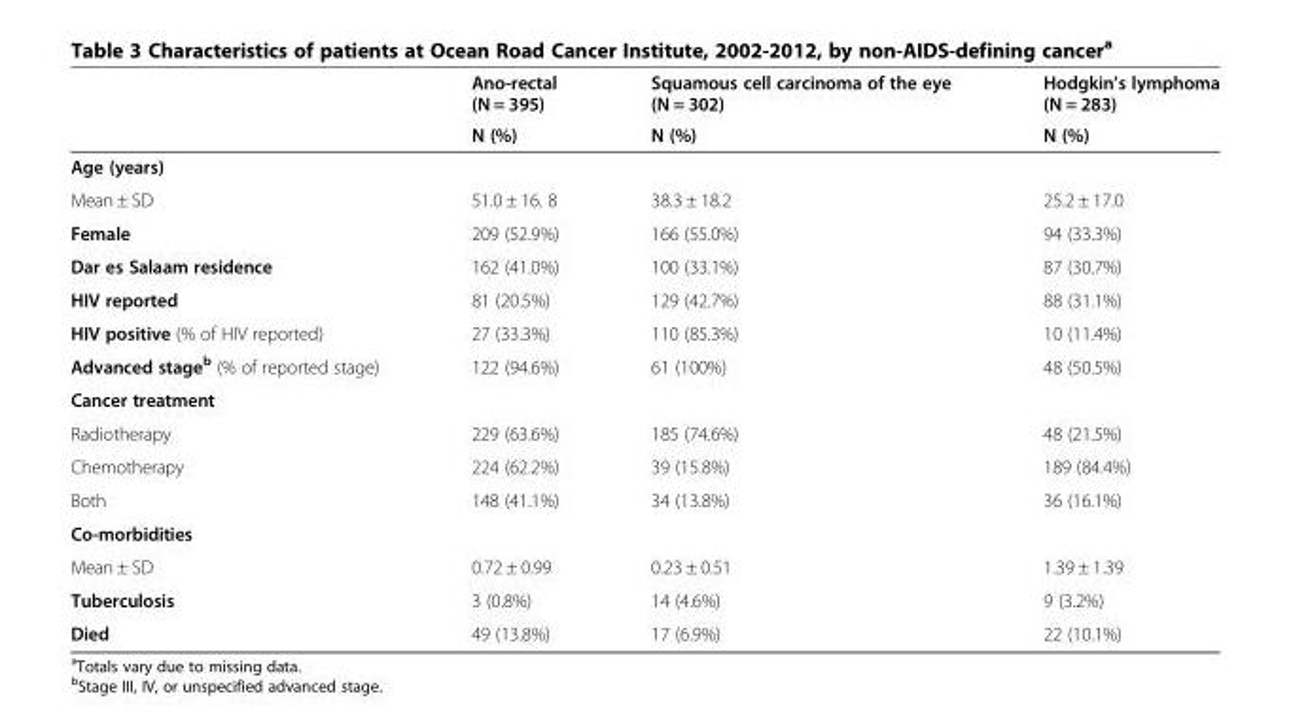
<table><thead><tr><td rowspan="2"></td><td rowspan="2">Ano-rectal (N = 395) N (%)</td><td rowspan="2">Squamous cell carcinoma of the eye (N = 302) N (%)</td><td rowspan="2">Hodgkin’s lymphoma (N = 283) N (%)</td></tr><tr></tr></thead><tbody><tr><td colspan="4">Age (years)</td></tr><tr><td>Mean ± SD</td><td>51.0 ± 16. 8</td><td>38.3 ± 18.2</td><td>25.2 ± 17.0</td></tr><tr><td>Female</td><td>209 (52.9%)</td><td>166 (55.0%)</td><td>94 (33.3%)</td></tr><tr><td>Dar es Salaam residence</td><td>162 (41.0%)</td><td>100 (33.1%)</td><td>87 (30.7%)</td></tr><tr><td>HIV reported</td><td>81 (20.5%)</td><td>129 (42.7%)</td><td>88 (31.1%)</td></tr><tr><td>HIV positive (% of HIV reported)</td><td>27 (33.3%)</td><td>110 (85.3%)</td><td>10 (11.4%)</td></tr><tr><td>Advanced stage<sup>b</sup> (% of reported stage)</td><td>122 (94.6%)</td><td>61 (100%)</td><td>48 (50.5%)</td></tr><tr><td colspan="4">Cancer treatment</td></tr><tr><td>Radiotherapy</td><td>229 (63.6%)</td><td>185 (74.6%)</td><td>48 (21.5%)</td></tr><tr><td>Chemotherapy</td><td>224 (62.2%)</td><td>39 (15.8%)</td><td>189 (84.4%)</td></tr><tr><td>Both</td><td>148 (41.1%)</td><td>34 (13.8%)</td><td>36 (16.1%)</td></tr><tr><td colspan="4">Co-morbidities</td></tr><tr><td>Mean ± SD</td><td>0.72 ± 0.99</td><td>0.23 ± 0.51</td><td>1.39 ± 1.39</td></tr><tr><td>Tuberculosis</td><td>3 (0.8%)</td><td>14 (4.6%)</td><td>9 (3.2%)</td></tr><tr><td>Died</td><td>49 (13.8%)</td><td>17 (6.9%)</td><td>22 (10.1%)</td></tr></tbody></table>